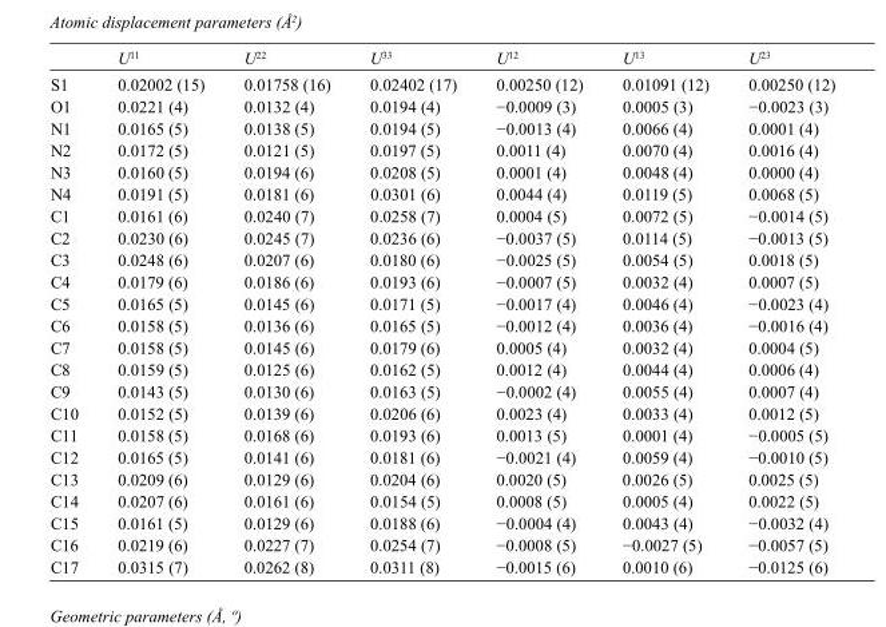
<table><thead><tr><td></td><td>U<sup>11</sup></td><td>U<sup>22</sup></td><td>U<sup>33</sup></td><td>U<sup>12</sup></td><td>U<sup>13</sup></td><td>U<sup>23</sup></td></tr></thead><tbody><tr><td>S1</td><td>0.02002 (15)</td><td>0.01758 (16)</td><td>0.02402 (17)</td><td>0.00250 (12)</td><td>0.01091 (12)</td><td>0.00250 (12)</td></tr><tr><td>O1</td><td>0.0221 (4)</td><td>0.0132 (4)</td><td>0.0194 (4)</td><td>−0.0009 (3)</td><td>0.0005 (3)</td><td>−0.0023 (3)</td></tr><tr><td>N1</td><td>0.0165 (5)</td><td>0.0138 (5)</td><td>0.0194 (5)</td><td>−0.0013 (4)</td><td>0.0066 (4)</td><td>0.0001 (4)</td></tr><tr><td>N2</td><td>0.0172 (5)</td><td>0.0121 (5)</td><td>0.0197 (5)</td><td>0.0011 (4)</td><td>0.0070 (4)</td><td>0.0016 (4)</td></tr><tr><td>N3</td><td>0.0160 (5)</td><td>0.0194 (6)</td><td>0.0208 (5)</td><td>0.0001 (4)</td><td>0.0048 (4)</td><td>0.0000 (4)</td></tr><tr><td>N4</td><td>0.0191 (5)</td><td>0.0181 (6)</td><td>0.0301 (6)</td><td>0.0044 (4)</td><td>0.0119 (5)</td><td>0.0068 (5)</td></tr><tr><td>C1</td><td>0.0161 (6)</td><td>0.0240 (7)</td><td>0.0258 (7)</td><td>0.0004 (5)</td><td>0.0072 (5)</td><td>−0.0014 (5)</td></tr><tr><td>C2</td><td>0.0230 (6)</td><td>0.0245 (7)</td><td>0.0236 (6)</td><td>−0.0037 (5)</td><td>0.0114 (5)</td><td>−0.0013 (5)</td></tr><tr><td>C3</td><td>0.0248 (6)</td><td>0.0207 (6)</td><td>0.0180 (6)</td><td>−0.0025 (5)</td><td>0.0054 (5)</td><td>0.0018 (5)</td></tr><tr><td>C4</td><td>0.0179 (6)</td><td>0.0186 (6)</td><td>0.0193 (6)</td><td>−0.0007 (5)</td><td>0.0032 (4)</td><td>0.0007 (5)</td></tr><tr><td>C5</td><td>0.0165 (5)</td><td>0.0145 (6)</td><td>0.0171 (5)</td><td>−0.0017 (4)</td><td>0.0046 (4)</td><td>−0.0023 (4)</td></tr><tr><td>C6</td><td>0.0158 (5)</td><td>0.0136 (6)</td><td>0.0165 (5)</td><td>−0.0012 (4)</td><td>0.0036 (4)</td><td>−0.0016 (4)</td></tr><tr><td>C7</td><td>0.0158 (5)</td><td>0.0145 (6)</td><td>0.0179 (6)</td><td>0.0005 (4)</td><td>0.0032 (4)</td><td>0.0004 (5)</td></tr><tr><td>C8</td><td>0.0159 (5)</td><td>0.0125 (6)</td><td>0.0162 (5)</td><td>0.0012 (4)</td><td>0.0044 (4)</td><td>0.0006 (4)</td></tr><tr><td>C9</td><td>0.0143 (5)</td><td>0.0130 (6)</td><td>0.0163 (5)</td><td>−0.0002 (4)</td><td>0.0055 (4)</td><td>0.0007 (4)</td></tr><tr><td>C10</td><td>0.0152 (5)</td><td>0.0139 (6)</td><td>0.0206 (6)</td><td>0.0023 (4)</td><td>0.0033 (4)</td><td>0.0012 (5)</td></tr><tr><td>C11</td><td>0.0158 (5)</td><td>0.0168 (6)</td><td>0.0193 (6)</td><td>0.0013 (5)</td><td>0.0001 (4)</td><td>−0.0005 (5)</td></tr><tr><td>C12</td><td>0.0165 (5)</td><td>0.0141 (6)</td><td>0.0181 (6)</td><td>−0.0021 (4)</td><td>0.0059 (4)</td><td>−0.0010 (5)</td></tr><tr><td>C13</td><td>0.0209 (6)</td><td>0.0129 (6)</td><td>0.0204 (6)</td><td>0.0020 (5)</td><td>0.0026 (5)</td><td>0.0025 (5)</td></tr><tr><td>C14</td><td>0.0207 (6)</td><td>0.0161 (6)</td><td>0.0154 (5)</td><td>0.0008 (5)</td><td>0.0005 (4)</td><td>0.0022 (5)</td></tr><tr><td>C15</td><td>0.0161 (5)</td><td>0.0129 (6)</td><td>0.0188 (6)</td><td>−0.0004 (4)</td><td>0.0043 (4)</td><td>−0.0032 (4)</td></tr><tr><td>C16</td><td>0.0219 (6)</td><td>0.0227 (7)</td><td>0.0254 (7)</td><td>−0.0008 (5)</td><td>−0.0027 (5)</td><td>−0.0057 (5)</td></tr><tr><td>C17</td><td>0.0315 (7)</td><td>0.0262 (8)</td><td>0.0311 (8)</td><td>−0.0015 (6)</td><td>0.0010 (6)</td><td>−0.0125 (6)</td></tr></tbody></table>